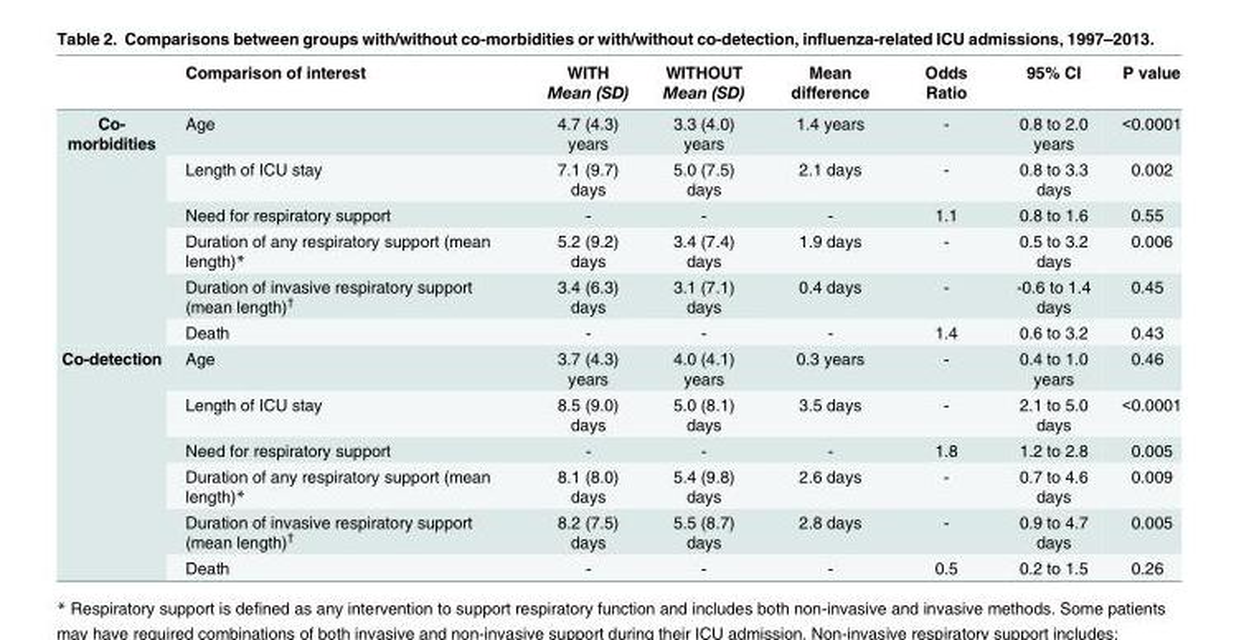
<table><thead><tr><td rowspan="2"></td><td rowspan="2">Comparison of interest</td><td rowspan="2">WITH Mean (SD)</td><td rowspan="2">WITHOUT Mean (SD)</td><td rowspan="2">Mean difference</td><td rowspan="2">Odds Ratio</td><td rowspan="2">95% CI</td><td rowspan="2">P value</td></tr><tr></tr></thead><tbody><tr><td rowspan="6">Co- morbidities</td><td>Age</td><td>4.7 (4.3) years</td><td>3.3 (4.0) years</td><td>1.4 years</td><td>-</td><td>0.8 to 2.0 years</td><td>&lt;0.0001</td></tr><tr><td>Length of ICU stay</td><td>7.1 (9.7) days</td><td>5.0 (7.5) days</td><td>2.1 days</td><td>-</td><td>0.8 to 3.3 days</td><td>0.002</td></tr><tr><td>Need for respiratory support</td><td>-</td><td>-</td><td>-</td><td>1.1</td><td>0.8 to 1.6</td><td>0.55</td></tr><tr><td>Duration of any respiratory support (mean length)*</td><td>5.2 (9.2) days</td><td>3.4 (7.4) days</td><td>1.9 days</td><td>-</td><td>0.5 to 3.2 days</td><td>0.006</td></tr><tr><td>Duration of invasive respiratory support (mean length)<sup>†</sup></td><td>3.4 (6.3) days</td><td>3.1 (7.1) days</td><td>0.4 days</td><td>-</td><td>-0.6 to 1.4 days</td><td>0.45</td></tr><tr><td>Death</td><td>-</td><td>-</td><td>-</td><td>1.4</td><td>0.6 to 3.2</td><td>0.43</td></tr><tr><td rowspan="6">Co-detection</td><td>Age</td><td>3.7 (4.3) years</td><td>4.0 (4.1) years</td><td>0.3 years</td><td>-</td><td>0.4 to 1.0 years</td><td>0.46</td></tr><tr><td>Length of ICU stay</td><td>8.5 (9.0) days</td><td>5.0 (8.1) days</td><td>3.5 days</td><td>-</td><td>2.1 to 5.0 days</td><td>&lt;0.0001</td></tr><tr><td>Need for respiratory support</td><td>-</td><td>-</td><td>-</td><td>1.8</td><td>1.2 to 2.8</td><td>0.005</td></tr><tr><td>Duration of any respiratory support (mean length)*</td><td>8.1 (8.0) days</td><td>5.4 (9.8) days</td><td>2.6 days</td><td>-</td><td>0.7 to 4.6 days</td><td>0.009</td></tr><tr><td>Duration of invasive respiratory support (mean length)<sup>†</sup></td><td>8.2 (7.5) days</td><td>5.5 (8.7) days</td><td>2.8 days</td><td>-</td><td>0.9 to 4.7 days</td><td>0.005</td></tr><tr><td>Death</td><td>-</td><td>-</td><td>-</td><td>0.5</td><td>0.2 to 1.5</td><td>0.26</td></tr></tbody></table>